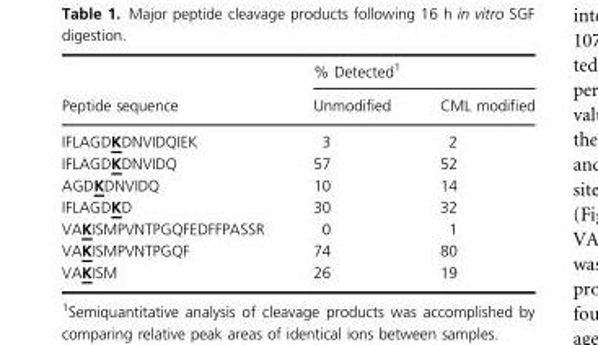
<table><thead><tr><td rowspan="2">Peptide sequence</td><td colspan="2">% Detected<sup>1</sup></td></tr><tr><td>Unmodified</td><td>CML modified</td></tr></thead><tbody><tr><td>IFLAGDKDNVIDQIEK</td><td>3</td><td>2</td></tr><tr><td>IFLAGDKDNVIDQ</td><td>57</td><td>52</td></tr><tr><td>AGDKDNVIDQ</td><td>10</td><td>14</td></tr><tr><td>IFLAGDKD</td><td>30</td><td>32</td></tr><tr><td>VAKISMPVNTPGQFEDFFPASSR</td><td>0</td><td>1</td></tr><tr><td>VAKISMPVNTPGQF</td><td>74</td><td>80</td></tr><tr><td>VAKISM</td><td>26</td><td>19</td></tr></tbody></table>